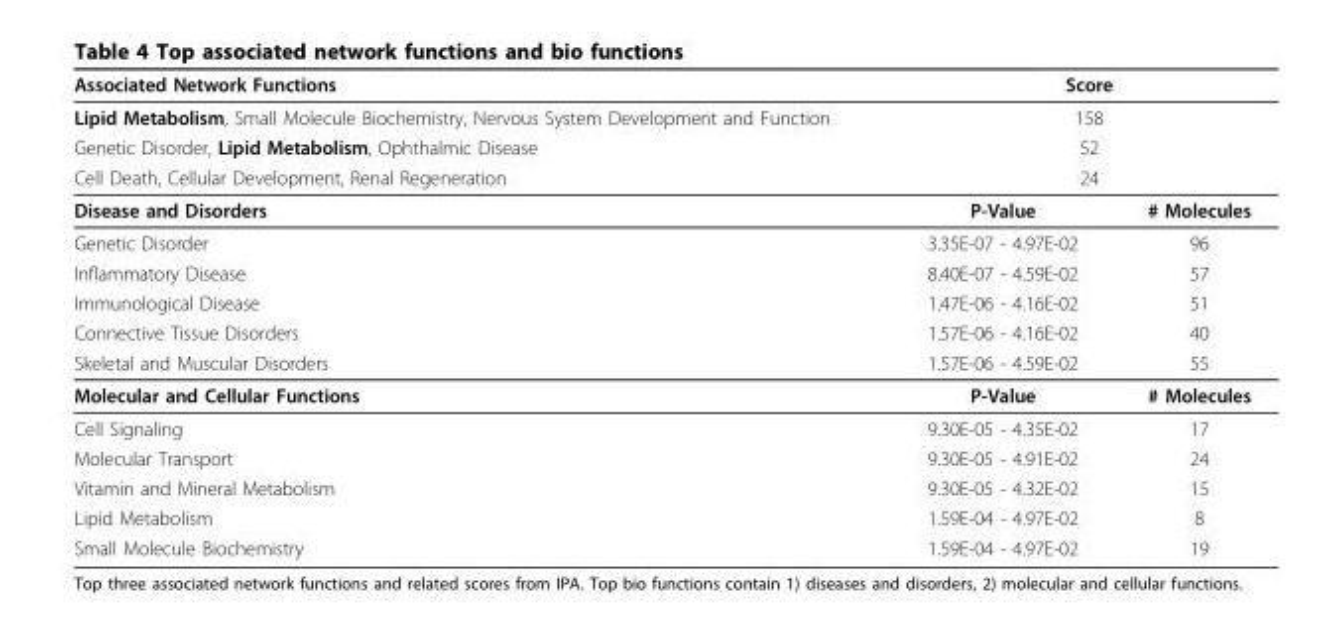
<table><thead><tr><td>Associated Network Functions</td><td colspan="2">Score</td></tr></thead><tbody><tr><td>Lipid Metabolism, Small Molecule Biochemistry, Nervous System Development and Function</td><td colspan="2">158</td></tr><tr><td>Genetic Disorder, Lipid Metabolism, Ophthalmic Disease</td><td colspan="2">52</td></tr><tr><td>Cell Death, Cellular Development, Renal Regeneration</td><td colspan="2">24</td></tr><tr><td>Disease and Disorders</td><td>P-Value</td><td># Molecules</td></tr><tr><td>Genetic Disorder</td><td>3.35E-07 - 4.97E-02</td><td>96</td></tr><tr><td>Inflammatory Disease</td><td>8.40E-07 - 4.59E-02</td><td>57</td></tr><tr><td>Immunological Disease</td><td>1.47E-06 - 4.16E-02</td><td>51</td></tr><tr><td>Connective Tissue Disorders</td><td>1.57E-06 - 4.16E-02</td><td>40</td></tr><tr><td>Skeletal and Muscular Disorders</td><td>1.57E-06 - 4.59E-02</td><td>55</td></tr><tr><td>Molecular and Cellular Functions</td><td>P-Value</td><td># Molecules</td></tr><tr><td>Cell Signaling</td><td>9.30E-05 - 4.35E-02</td><td>17</td></tr><tr><td>Molecular Transport</td><td>9.30E-05 - 4.91E-02</td><td>24</td></tr><tr><td>Vitamin and Mineral Metabolism</td><td>9.30E-05 - 4.32E-02</td><td>15</td></tr><tr><td>Lipid Metabolism</td><td>1.59E-04 - 4.97E-02</td><td>8</td></tr><tr><td>Small Molecule Biochemistry</td><td>1.59E-04 - 4.97E-02</td><td>19</td></tr></tbody></table>